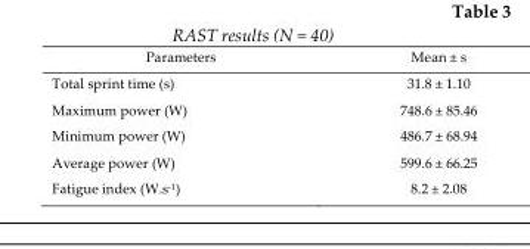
<table><thead><tr><td>Parameters</td><td>Mean ± s</td></tr></thead><tbody><tr><td>Total sprint time (s)</td><td>31.8 ± 1.10</td></tr><tr><td>Maximum power (W)</td><td>748.6 ± 85.46</td></tr><tr><td>Minimum power (W)</td><td>486.7 ± 68.94</td></tr><tr><td>Average power (W)</td><td>599.6 ± 66.25</td></tr><tr><td>Fatigue index (W.s<sup>-1</sup>)</td><td>8.2 ± 2.08</td></tr></tbody></table>